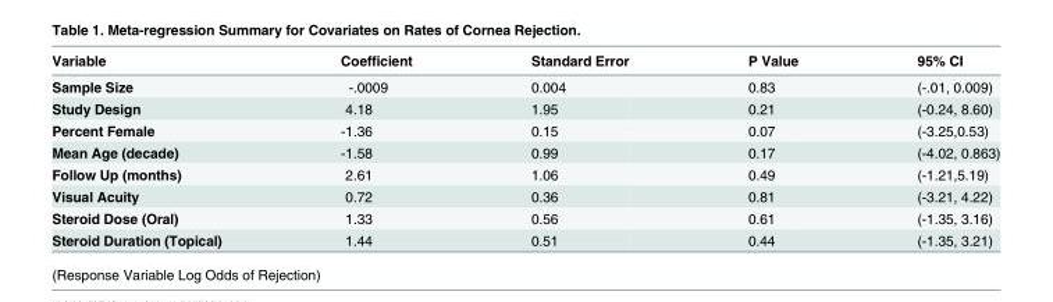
<table><thead><tr><td>Variable</td><td>Coefficient</td><td>Standard Error</td><td>P Value</td><td>95% CI</td></tr></thead><tbody><tr><td>Sample Size</td><td>-.0009</td><td>0.004</td><td>0.83</td><td>(-.01, 0.009)</td></tr><tr><td>Study Design</td><td>4.18</td><td>1.95</td><td>0.21</td><td>(-0.24, 8.60)</td></tr><tr><td>Percent Female</td><td>-1.36</td><td>0.15</td><td>0.07</td><td>(-3.25,0.53)</td></tr><tr><td>Mean Age (decade)</td><td>-1.58</td><td>0.99</td><td>0.17</td><td>(-4.02, 0.863)</td></tr><tr><td>Follow Up (months)</td><td>2.61</td><td>1.06</td><td>0.49</td><td>(-1.21,5.19)</td></tr><tr><td>Visual Acuity</td><td>0.72</td><td>0.36</td><td>0.81</td><td>(-3.21, 4.22)</td></tr><tr><td>Steroid Dose (Oral)</td><td>1.33</td><td>0.56</td><td>0.61</td><td>(-1.35, 3.16)</td></tr><tr><td>Steroid Duration (Topical)</td><td>1.44</td><td>0.51</td><td>0.44</td><td>(-1.35, 3.21)</td></tr></tbody></table>